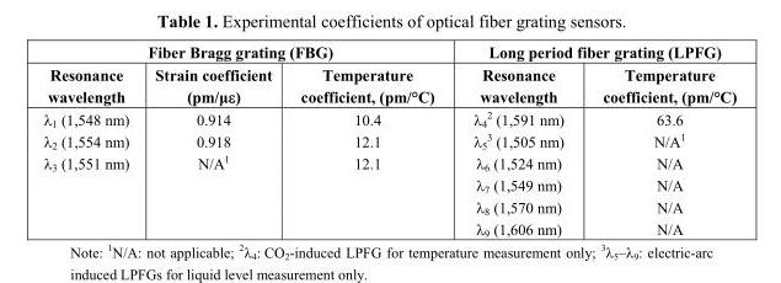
<table><thead><tr><td colspan="3">Fiber Bragg grating (FBG)</td><td colspan="2">Long period fiber grating (LPFG)</td></tr><tr><td>Resonance wavelength</td><td>Strain coefficient (pm/με)</td><td>Temperature coefficient, (pm/°C)</td><td>Resonance wavelength</td><td>Temperature coefficient, (pm/°C)</td></tr></thead><tbody><tr><td>λ<sub>1</sub> (1,548 nm)</td><td>0.914</td><td>10.4</td><td>λ<sub>4</sub> <sup>2</sup> (1,591 nm)</td><td>63.6</td></tr><tr><td>λ<sub>2</sub> (1,554 nm)</td><td>0.918</td><td>12.1</td><td>λ<sub>5</sub> <sup>3</sup> (1,505 nm)</td><td>N/A<sup>1</sup></td></tr><tr><td rowspan="4">λ<sub>3</sub> (1,551 nm)</td><td>N/A<sup>1</sup></td><td>12.1</td><td>λ<sub>6</sub> (1,524 nm)</td><td>N/A</td></tr><tr><td></td><td></td><td>λ<sub>7</sub> (1,549 nm)</td><td>N/A</td></tr><tr><td></td><td></td><td>λ<sub>8</sub> (1,570 nm)</td><td>N/A</td></tr><tr><td></td><td></td><td>λ<sub>9</sub> (1,606 nm)</td><td>N/A</td></tr></tbody></table>